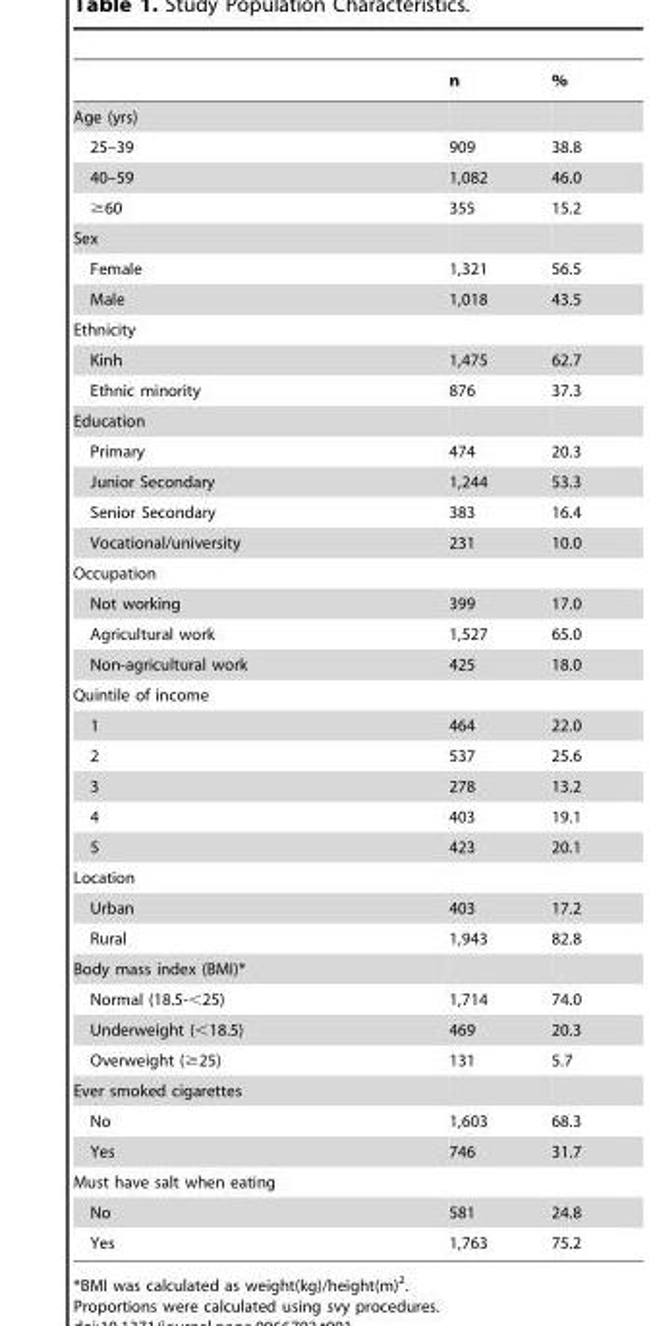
<table><thead><tr><td></td><td>n</td><td>%</td></tr></thead><tbody><tr><td colspan="3">Age (yrs)</td></tr><tr><td>25–39</td><td>909</td><td>38.8</td></tr><tr><td>40–59</td><td>1,082</td><td>46.0</td></tr><tr><td>≥60</td><td>355</td><td>15.2</td></tr><tr><td colspan="3">Sex</td></tr><tr><td>Female</td><td>1,321</td><td>56.5</td></tr><tr><td>Male</td><td>1,018</td><td>43.5</td></tr><tr><td colspan="3">Ethnicity</td></tr><tr><td>Kinh</td><td>1,475</td><td>62.7</td></tr><tr><td>Ethnic minority</td><td>876</td><td>37.3</td></tr><tr><td colspan="3">Education</td></tr><tr><td>Primary</td><td>474</td><td>20.3</td></tr><tr><td>Junior Secondary</td><td>1,244</td><td>53.3</td></tr><tr><td>Senior Secondary</td><td>383</td><td>16.4</td></tr><tr><td>Vocational/university</td><td>231</td><td>10.0</td></tr><tr><td colspan="3">Occupation</td></tr><tr><td>Not working</td><td>399</td><td>17.0</td></tr><tr><td>Agricultural work</td><td>1,527</td><td>65.0</td></tr><tr><td>Non-agricultural work</td><td>425</td><td>18.0</td></tr><tr><td colspan="3">Quintile of income</td></tr><tr><td>1</td><td>464</td><td>22.0</td></tr><tr><td>2</td><td>537</td><td>25.6</td></tr><tr><td>3</td><td>278</td><td>13.2</td></tr><tr><td>4</td><td>403</td><td>19.1</td></tr><tr><td>5</td><td>423</td><td>20.1</td></tr><tr><td colspan="3">Location</td></tr><tr><td>Urban</td><td>403</td><td>17.2</td></tr><tr><td>Rural</td><td>1,943</td><td>82.8</td></tr><tr><td colspan="3">Body mass index (BMI)*</td></tr><tr><td>Normal (18.5-&lt;25)</td><td>1,714</td><td>74.0</td></tr><tr><td>Underweight (&lt;18.5)</td><td>469</td><td>20.3</td></tr><tr><td>Overweight (≥25)</td><td>131</td><td>5.7</td></tr><tr><td colspan="3">Ever smoked cigarettes</td></tr><tr><td>No</td><td>1,603</td><td>68.3</td></tr><tr><td>Yes</td><td>746</td><td>31.7</td></tr><tr><td colspan="3">Must have salt when eating</td></tr><tr><td>No</td><td>581</td><td>24.8</td></tr><tr><td>Yes</td><td>1,763</td><td>75.2</td></tr></tbody></table>